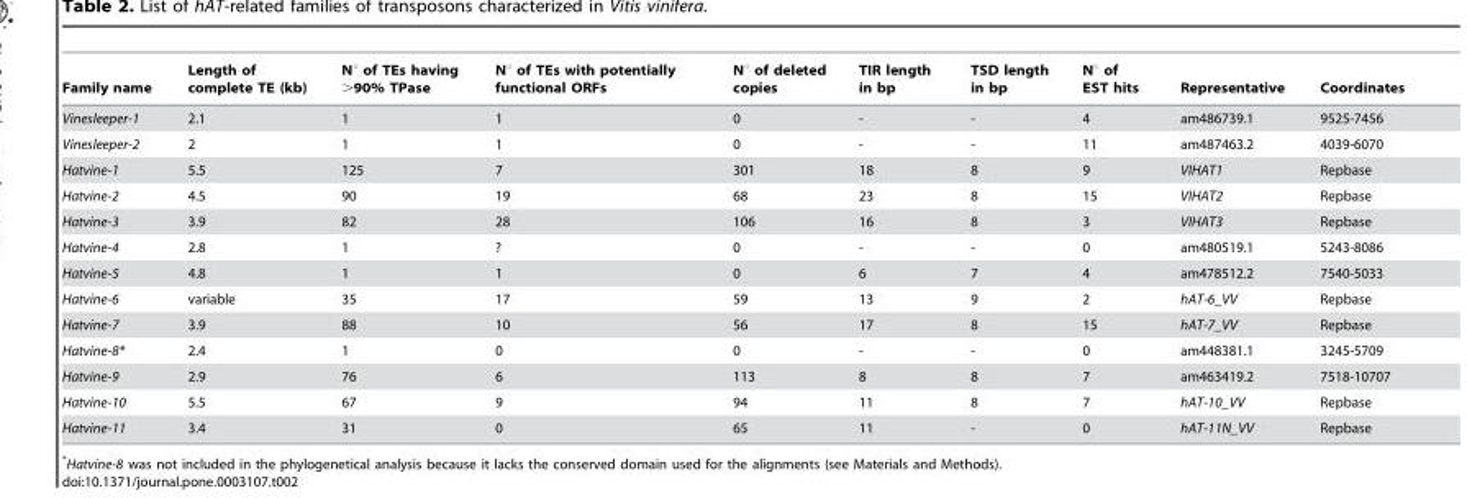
<table><thead><tr><td>Family name</td><td>Length of complete TE (kb)</td><td>N° of TEs having &gt;90% TPase</td><td>N° of TEs with potentially functional ORFs</td><td>N° of deleted copies</td><td>TIR length in bp</td><td>TSD length in bp</td><td>N° of EST hits</td><td>Representative</td><td>Coordinates</td></tr></thead><tbody><tr><td>Vinesleeper-1</td><td>2.1</td><td>1</td><td>1</td><td>0</td><td>-</td><td>-</td><td>4</td><td>am486739.1</td><td>9525-7456</td></tr><tr><td>Vinesleeper-2</td><td>2</td><td>1</td><td>1</td><td>0</td><td>-</td><td>-</td><td>11</td><td>am487463.2</td><td>4039-6070</td></tr><tr><td>Hatvine-1</td><td>5.5</td><td>125</td><td>7</td><td>301</td><td>18</td><td>8</td><td>9</td><td>VIHAT1</td><td>Repbase</td></tr><tr><td>Hatvine-2</td><td>4.5</td><td>90</td><td>19</td><td>68</td><td>23</td><td>8</td><td>15</td><td>VIHAT2</td><td>Repbase</td></tr><tr><td>Hatvine-3</td><td>3.9</td><td>82</td><td>28</td><td>106</td><td>16</td><td>8</td><td>3</td><td>VIHAT3</td><td>Repbase</td></tr><tr><td>Hatvine-4</td><td>2.8</td><td>1</td><td>?</td><td>0</td><td>-</td><td>-</td><td>0</td><td>am480519.1</td><td>5243-8086</td></tr><tr><td>Hatvine-5</td><td>4.8</td><td>1</td><td>1</td><td>0</td><td>6</td><td>7</td><td>4</td><td>am478512.2</td><td>7540-5033</td></tr><tr><td>Hatvine-6</td><td>variable</td><td>35</td><td>17</td><td>59</td><td>13</td><td>9</td><td>2</td><td>hAT-6_VV</td><td>Repbase</td></tr><tr><td>Hatvine-7</td><td>3.9</td><td>88</td><td>10</td><td>56</td><td>17</td><td>8</td><td>15</td><td>hAT-7_VV</td><td>Repbase</td></tr><tr><td>Hatvine-8*</td><td>2.4</td><td>1</td><td>0</td><td>0</td><td>-</td><td>-</td><td>0</td><td>am448381.1</td><td>3245-5709</td></tr><tr><td>Hatvine-9</td><td>2.9</td><td>76</td><td>6</td><td>113</td><td>8</td><td>8</td><td>7</td><td>am463419.2</td><td>7518-10707</td></tr><tr><td>Hatvine-10</td><td>5.5</td><td>67</td><td>9</td><td>94</td><td>11</td><td>8</td><td>7</td><td>hAT-10_VV</td><td>Repbase</td></tr><tr><td>Hatvine-11</td><td>3.4</td><td>31</td><td>0</td><td>65</td><td>11</td><td>-</td><td>0</td><td>hAT-11N_VV</td><td>Repbase</td></tr></tbody></table>